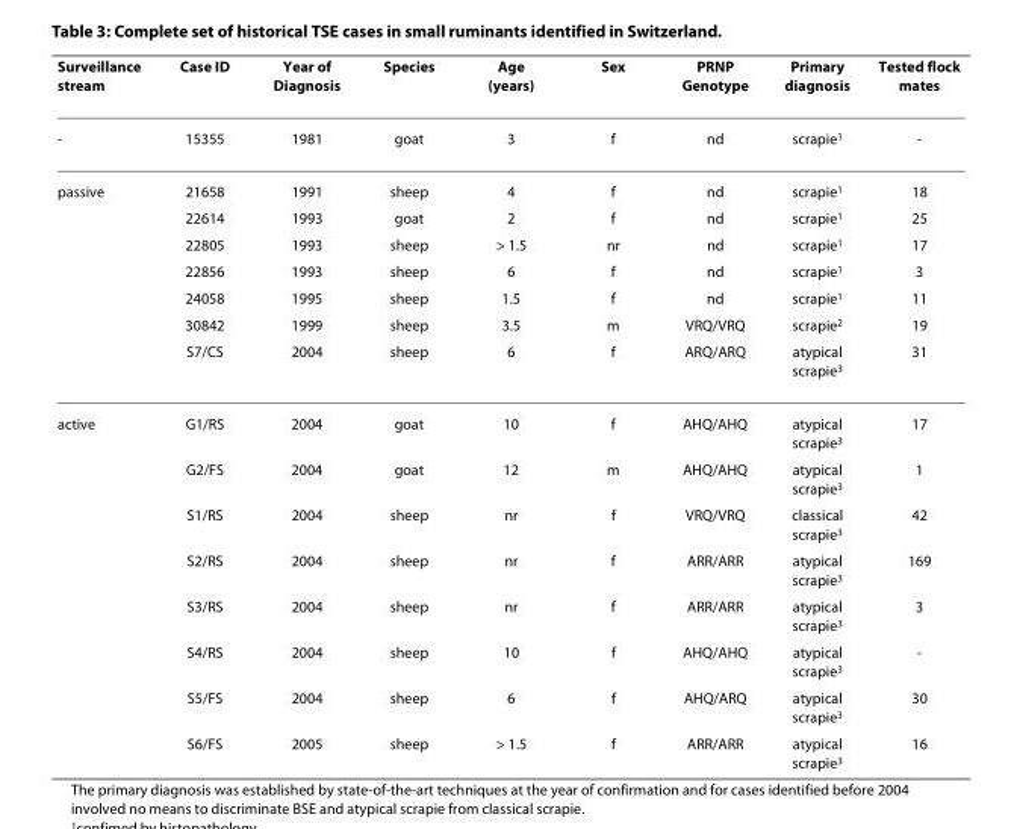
<table><thead><tr><td>Surveillance stream</td><td>Case ID</td><td>Year of Diagnosis</td><td>Species</td><td>Age (years)</td><td>Sex</td><td>PRNP Genotype</td><td>Primary diagnosis</td><td>Tested flock mates</td></tr></thead><tbody><tr><td>-</td><td>15355</td><td>1981</td><td>goat</td><td>3</td><td>f</td><td>nd</td><td>scrapie<sup>1</sup></td><td>-</td></tr><tr><td rowspan="7">passive</td><td>21658</td><td>1991</td><td>sheep</td><td>4</td><td>f</td><td>nd</td><td>scrapie<sup>1</sup></td><td>18</td></tr><tr><td>22614</td><td>1993</td><td>goat</td><td>2</td><td>f</td><td>nd</td><td>scrapie<sup>1</sup></td><td>25</td></tr><tr><td>22805</td><td>1993</td><td>sheep</td><td>&gt; 1.5</td><td>nr</td><td>nd</td><td>scrapie<sup>1</sup></td><td>17</td></tr><tr><td>22856</td><td>1993</td><td>sheep</td><td>6</td><td>f</td><td>nd</td><td>scrapie<sup>1</sup></td><td>3</td></tr><tr><td>24058</td><td>1995</td><td>sheep</td><td>1.5</td><td>f</td><td>nd</td><td>scrapie<sup>1</sup></td><td>11</td></tr><tr><td>30842</td><td>1999</td><td>sheep</td><td>3.5</td><td>m</td><td>VRQ/VRQ</td><td>scrapie<sup>2</sup></td><td>19</td></tr><tr><td>S7/CS</td><td>2004</td><td>sheep</td><td>6</td><td>f</td><td>ARQ/ARQ</td><td>atypical scrapie<sup>3</sup></td><td>31</td></tr><tr><td rowspan="8">active</td><td>G1/RS</td><td>2004</td><td>goat</td><td>10</td><td>f</td><td>AHQ/AHQ</td><td>atypical scrapie<sup>3</sup></td><td>17</td></tr><tr><td>G2/FS</td><td>2004</td><td>goat</td><td>12</td><td>m</td><td>AHQ/AHQ</td><td>atypical scrapie<sup>3</sup></td><td>1</td></tr><tr><td>S1/RS</td><td>2004</td><td>sheep</td><td>nr</td><td>f</td><td>VRQ/VRQ</td><td>classical scrapie<sup>3</sup></td><td>42</td></tr><tr><td>S2/RS</td><td>2004</td><td>sheep</td><td>nr</td><td>f</td><td>ARR/ARR</td><td>atypical scrapie<sup>3</sup></td><td>169</td></tr><tr><td>S3/RS</td><td>2004</td><td>sheep</td><td>nr</td><td>f</td><td>ARR/ARR</td><td>atypical scrapie<sup>3</sup></td><td>3</td></tr><tr><td>S4/RS</td><td>2004</td><td>sheep</td><td>10</td><td>f</td><td>AHQ/AHQ</td><td>atypical scrapie<sup>3</sup></td><td>-</td></tr><tr><td>S5/FS</td><td>2004</td><td>sheep</td><td>6</td><td>f</td><td>AHQ/ARQ</td><td>atypical scrapie<sup>3</sup></td><td>30</td></tr><tr><td>S6/FS</td><td>2005</td><td>sheep</td><td>&gt; 1.5</td><td>f</td><td>ARR/ARR</td><td>atypical scrapie<sup>3</sup></td><td>16</td></tr></tbody></table>